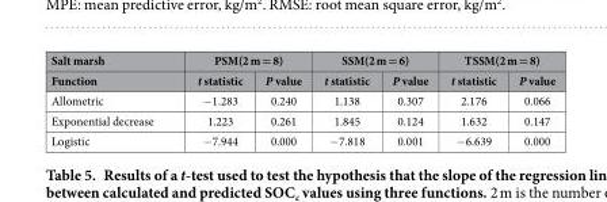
<table><thead><tr><td rowspan="2">Salt marsh Function</td><td colspan="2">PSM(2 m = 8)</td><td colspan="2">SSM(2 m = 6)</td><td colspan="2">TSSM(2 m = 8)</td></tr><tr><td>t statistic</td><td>P value</td><td>t statistic</td><td>P value</td><td>t statistic</td><td>P value</td></tr></thead><tbody><tr><td>Allometric</td><td>− 1.283</td><td>0.240</td><td>1.138</td><td>0.307</td><td>2.176</td><td>0.066</td></tr><tr><td>Exponential decrease</td><td>1.223</td><td>0.261</td><td>1.845</td><td>0.124</td><td>1.632</td><td>0.147</td></tr><tr><td>Logistic</td><td>− 7.944</td><td>0.000</td><td>− 7.818</td><td>0.001</td><td>− 6.639</td><td>0.000</td></tr></tbody></table>